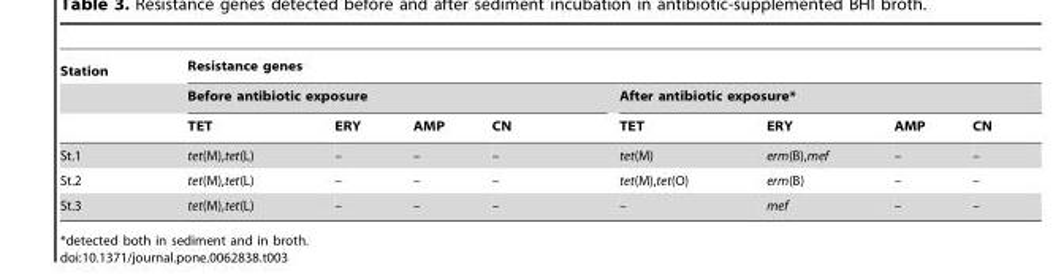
<table><thead><tr><td rowspan="3">Station</td><td colspan="8">Resistance genes</td></tr><tr><td colspan="4">Before antibiotic exposure</td><td colspan="4">After antibiotic exposure*</td></tr><tr><td>TET</td><td>ERY</td><td>AMP</td><td>CN</td><td>TET</td><td>ERY</td><td>AMP</td><td>CN</td></tr></thead><tbody><tr><td>St.1</td><td>tet(M),tet(L)</td><td>–</td><td>–</td><td>–</td><td>tet(M)</td><td>erm(B),mef</td><td>–</td><td>–</td></tr><tr><td>St.2</td><td>tet(M),tet(L)</td><td>–</td><td>–</td><td>–</td><td>tet(M),tet(O)</td><td>erm(B)</td><td>–</td><td>–</td></tr><tr><td>St.3</td><td>tet(M),tet(L)</td><td>–</td><td>–</td><td>–</td><td>–</td><td>mef</td><td>–</td><td>–</td></tr></tbody></table>